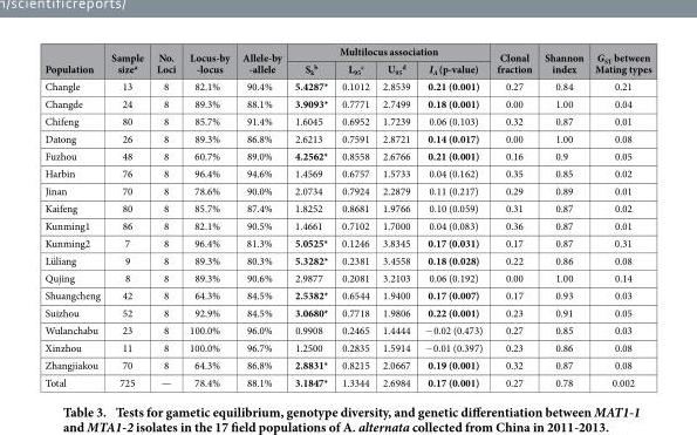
<table><thead><tr><td rowspan="2">Population</td><td rowspan="2">Sample size<sup>a</sup></td><td rowspan="2">No. Loci</td><td rowspan="2">Locus-by -locus</td><td rowspan="2">Allele-by -allele</td><td colspan="4">Multilocus association</td><td rowspan="2">Clonal fraction</td><td rowspan="2">Shannon index</td><td rowspan="2">G<sub>ST</sub> between Mating types</td></tr><tr><td>S<sub>k</sub> <sup>b</sup></td><td>L<sub>95</sub> <sup>c</sup></td><td>U<sub>95</sub> <sup>d</sup></td><td>I<sub>A</sub> (p-value)</td></tr></thead><tbody><tr><td>Changle</td><td>13</td><td>8</td><td>82.1%</td><td>90.4%</td><td>5.4287*</td><td>0.1012</td><td>2.8539</td><td>0.21 (0.001)</td><td>0.27</td><td>0.84</td><td>0.21</td></tr><tr><td>Changde</td><td>24</td><td>8</td><td>89.3%</td><td>88.1%</td><td>3.9093*</td><td>0.7771</td><td>2.7499</td><td>0.18 (0.001)</td><td>0.00</td><td>1.00</td><td>0.04</td></tr><tr><td>Chifeng</td><td>80</td><td>8</td><td>85.7%</td><td>91.4%</td><td>1.6045</td><td>0.6952</td><td>1.7239</td><td>0.06 (0.103)</td><td>0.32</td><td>0.87</td><td>0.01</td></tr><tr><td>Datong</td><td>26</td><td>8</td><td>89.3%</td><td>86.8%</td><td>2.6213</td><td>0.7591</td><td>2.8721</td><td>0.14 (0.017)</td><td>0.00</td><td>1.00</td><td>0.08</td></tr><tr><td>Fuzhou</td><td>48</td><td>8</td><td>60.7%</td><td>89.0%</td><td>4.2562*</td><td>0.8558</td><td>2.6766</td><td>0.21 (0.001)</td><td>0.16</td><td>0.9</td><td>0.05</td></tr><tr><td>Harbin</td><td>76</td><td>8</td><td>96.4%</td><td>94.6%</td><td>1.4569</td><td>0.6757</td><td>1.5733</td><td>0.04 (0.162)</td><td>0.35</td><td>0.85</td><td>0.02</td></tr><tr><td>Jinan</td><td>70</td><td>8</td><td>78.6%</td><td>90.0%</td><td>2.0734</td><td>0.7924</td><td>2.2879</td><td>0.11 (0.217)</td><td>0.29</td><td>0.89</td><td>0.01</td></tr><tr><td>Kaifeng</td><td>80</td><td>8</td><td>85.7%</td><td>87.4%</td><td>1.8252</td><td>0.8681</td><td>1.9766</td><td>0.10 (0.059)</td><td>0.31</td><td>0.87</td><td>0.02</td></tr><tr><td>Kunming1</td><td>86</td><td>8</td><td>82.1%</td><td>90.5%</td><td>1.4661</td><td>0.7102</td><td>1.7000</td><td>0.04 (0.083)</td><td>0.36</td><td>0.87</td><td>0.01</td></tr><tr><td>Kunming2</td><td>7</td><td>8</td><td>96.4%</td><td>81.3%</td><td>5.0525*</td><td>0.1246</td><td>3.8345</td><td>0.17 (0.031)</td><td>0.17</td><td>0.87</td><td>0.31</td></tr><tr><td>Lü´liang</td><td>9</td><td>8</td><td>89.3%</td><td>80.3%</td><td>5.3282*</td><td>0.2381</td><td>3.4558</td><td>0.18 (0.028)</td><td>0.22</td><td>0.86</td><td>0.08</td></tr><tr><td>Qujing</td><td>8</td><td>8</td><td>89.3%</td><td>90.6%</td><td>2.9877</td><td>0.2081</td><td>3.2103</td><td>0.06 (0.192)</td><td>0.00</td><td>1.00</td><td>0.14</td></tr><tr><td>Shuangcheng</td><td>42</td><td>8</td><td>64.3%</td><td>84.5%</td><td>2.5382*</td><td>0.6544</td><td>1.9400</td><td>0.17 (0.007)</td><td>0.17</td><td>0.93</td><td>0.03</td></tr><tr><td>Suizhou</td><td>52</td><td>8</td><td>92.9%</td><td>84.5%</td><td>3.0680*</td><td>0.7718</td><td>1.9806</td><td>0.22 (0.001)</td><td>0.23</td><td>0.91</td><td>0.05</td></tr><tr><td>Wulanchabu</td><td>23</td><td>8</td><td>100.0%</td><td>96.0%</td><td>0.9908</td><td>0.2465</td><td>1.4444</td><td>− 0.02 (0.473)</td><td>0.27</td><td>0.85</td><td>0.03</td></tr><tr><td>Xinzhou</td><td>11</td><td>8</td><td>100.0%</td><td>96.7%</td><td>1.2500</td><td>0.2835</td><td>1.5914</td><td>− 0.01 (0.397)</td><td>0.23</td><td>0.86</td><td>0.08</td></tr><tr><td>Zhangjiakou</td><td>70</td><td>8</td><td>64.3%</td><td>86.8%</td><td>2.8831*</td><td>0.8215</td><td>2.0667</td><td>0.19 (0.001)</td><td>0.32</td><td>0.87</td><td>0.08</td></tr><tr><td>Total</td><td>725</td><td>—</td><td>78.4%</td><td>88.1%</td><td>3.1847*</td><td>1.3344</td><td>2.6984</td><td>0.17 (0.001)</td><td>0.27</td><td>0.78</td><td>0.002</td></tr></tbody></table>